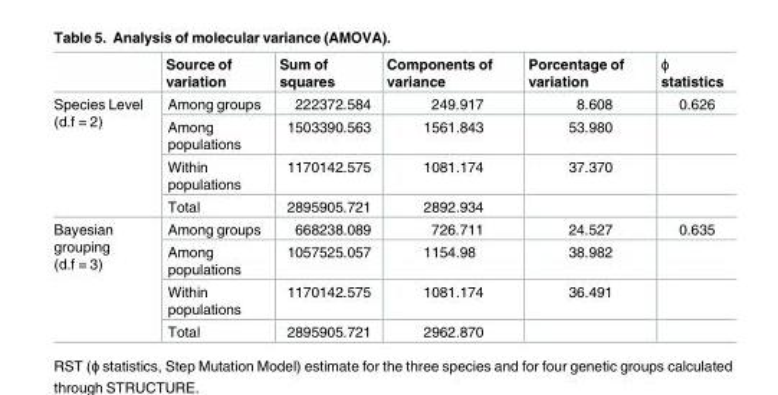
<table><thead><tr><td></td><td>Source of variation</td><td>Sum of squares</td><td>Components of variance</td><td>Porcentage of variation</td><td>ɸ statistics</td></tr></thead><tbody><tr><td rowspan="4">Species Level (d.f = 2)</td><td>Among groups</td><td>222372.584</td><td>249.917</td><td>8.608</td><td>0.626</td></tr><tr><td>Among populations</td><td>1503390.563</td><td>1561.843</td><td>53.980</td><td></td></tr><tr><td>Within populations</td><td>1170142.575</td><td>1081.174</td><td>37.370</td><td></td></tr><tr><td>Total</td><td>2895905.721</td><td>2892.934</td><td></td><td></td></tr><tr><td rowspan="4">Bayesian grouping (d.f = 3)</td><td>Among groups</td><td>668238.089</td><td>726.711</td><td>24.527</td><td>0.635</td></tr><tr><td>Among populations</td><td>1057525.057</td><td>1154.98</td><td>38.982</td><td></td></tr><tr><td>Within populations</td><td>1170142.575</td><td>1081.174</td><td>36.491</td><td></td></tr><tr><td>Total</td><td>2895905.721</td><td>2962.870</td><td></td><td></td></tr></tbody></table>